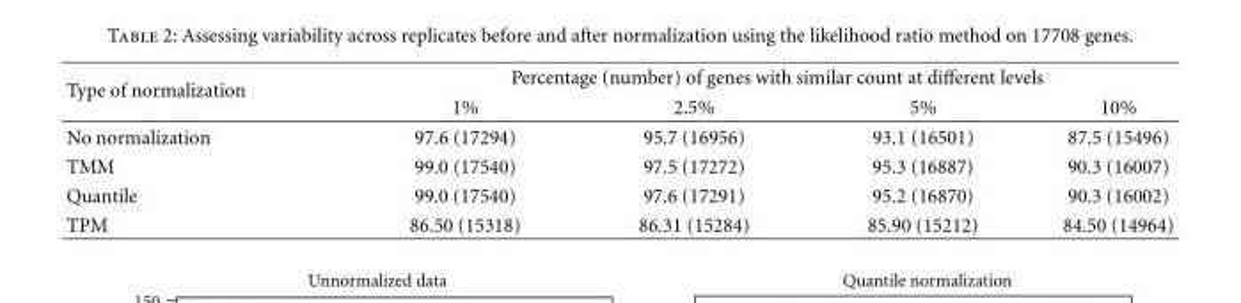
<table><thead><tr><td rowspan="2">Type of normalization</td><td colspan="4">Percentage (number) of genes with similar count at different levels</td></tr><tr><td>1%</td><td>2.5%</td><td>5%</td><td>10%</td></tr></thead><tbody><tr><td>No normalization</td><td>97.6 (17294)</td><td>95.7 (16956)</td><td>93.1 (16501)</td><td>87.5 (15496)</td></tr><tr><td>TMM</td><td>99.0 (17540)</td><td>97.5 (17272)</td><td>95.3 (16887)</td><td>90.3 (16007)</td></tr><tr><td>Quantile</td><td>99.0 (17540)</td><td>97.6 (17291)</td><td>95.2 (16870)</td><td>90.3 (16002)</td></tr><tr><td>TPM</td><td>86.50 (15318)</td><td>86.31 (15284)</td><td>85.90 (15212)</td><td>84.50 (14964)</td></tr></tbody></table>